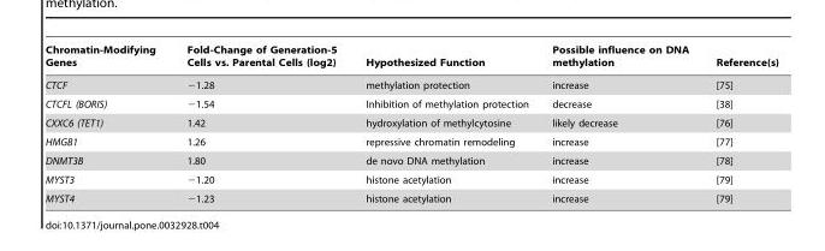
<table><thead><tr><td>Chromatin-Modifying Genes</td><td>Fold-Change of Generation-5 Cells vs. Parental Cells (log2)</td><td>Hypothesized Function</td><td>Possible influence on DNA methylation</td><td>Reference(s)</td></tr></thead><tbody><tr><td>CTCF</td><td>−1.28</td><td>methylation protection</td><td>increase</td><td>[75]</td></tr><tr><td>CTCFL (BORIS)</td><td>−1.54</td><td>Inhibition of methylation protection</td><td>decrease</td><td>[38]</td></tr><tr><td>CXXC6 (TET1)</td><td>1.42</td><td>hydroxylation of methylcytosine</td><td>likely decrease</td><td>[76]</td></tr><tr><td>HMGB1</td><td>1.26</td><td>repressive chromatin remodeling</td><td>increase</td><td>[77]</td></tr><tr><td>DNMT3B</td><td>1.80</td><td>de novo DNA methylation</td><td>increase</td><td>[78]</td></tr><tr><td>MYST3</td><td>−1.20</td><td>histone acetylation</td><td>increase</td><td>[79]</td></tr><tr><td>MYST4</td><td>−1.23</td><td>histone acetylation</td><td>increase</td><td>[79]</td></tr></tbody></table>